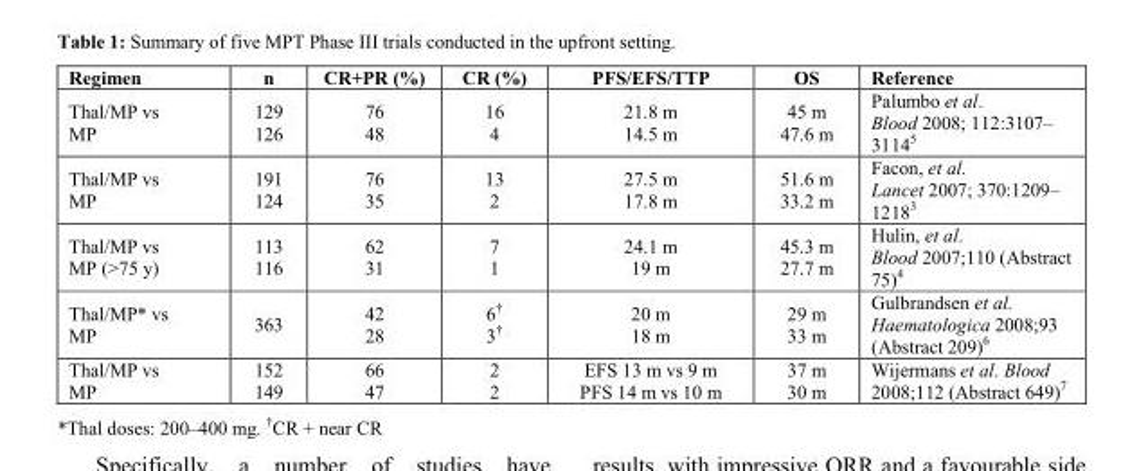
<table><thead><tr><td>Regimen</td><td>n</td><td>CR+PR (%)</td><td>CR (%)</td><td>PFS/EFS/TTP</td><td>OS</td><td>Reference</td></tr></thead><tbody><tr><td>Thal/MP vs MP</td><td>129 126</td><td>76 48</td><td>16 4</td><td>21.8 m 14.5 m</td><td>45 m 47.6 m</td><td>Palumbo et al. Blood 2008; 112:3107– 3114<sup>5</sup></td></tr><tr><td>Thal/MP vs MP</td><td>191 124</td><td>76 35</td><td>13 2</td><td>27.5 m 17.8 m</td><td>51.6 m 33.2 m</td><td>Facon, et al. Lancet 2007; 370:1209– 1218<sup>3</sup></td></tr><tr><td>Thal/MP vs MP (&gt;75 y)</td><td>113 116</td><td>62 31</td><td>7 1</td><td>24.1 m 19 m</td><td>45.3 m 27.7 m</td><td>Hulin, et al. Blood 2007;110 (Abstract 75)<sup>4</sup></td></tr><tr><td>Thal/MP* vs MP</td><td>363</td><td>42 28</td><td>6† 3†</td><td>20 m 18 m</td><td>29 m 33 m</td><td>Gulbrandsen et al. Haematologica 2008;93 (Abstract 209)<sup>6</sup></td></tr><tr><td>Thal/MP vs MP</td><td>152 149</td><td>66 47</td><td>2 2</td><td>EFS 13 m vs 9 m PFS 14 m vs 10 m</td><td>37 m 30 m</td><td>Wijermans et al. Blood 2008;112 (Abstract 649)<sup>7</sup></td></tr></tbody></table>